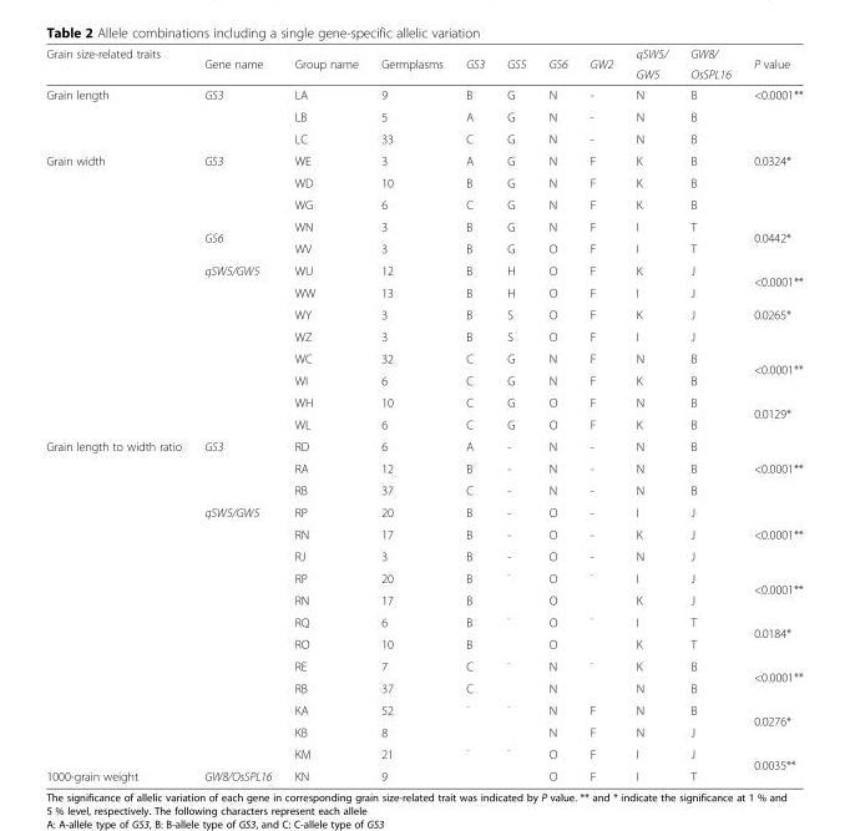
<table><thead><tr><td rowspan="2">Grain size-related traits</td><td rowspan="2">Gene name</td><td rowspan="2">Group name</td><td rowspan="2">Germplasms</td><td rowspan="2">GS3</td><td rowspan="2">GS5</td><td rowspan="2">GS6</td><td rowspan="2">GW2</td><td rowspan="2">qSW5/ GW5</td><td rowspan="2">GW8/ OsSPL16</td><td rowspan="2">P value</td></tr><tr></tr></thead><tbody><tr><td rowspan="3">Grain length</td><td rowspan="3">GS3</td><td>LA</td><td>9</td><td>B</td><td>G</td><td>N</td><td>-</td><td>N</td><td>B</td><td rowspan="3">&lt;0.0001**</td></tr><tr><td>LB</td><td>5</td><td>A</td><td>G</td><td>N</td><td>-</td><td>N</td><td>B</td></tr><tr><td>LC</td><td>33</td><td>C</td><td>G</td><td>N</td><td>-</td><td>N</td><td>B</td></tr><tr><td rowspan="13">Grain width</td><td rowspan="3">GS3</td><td>WE</td><td>3</td><td>A</td><td>G</td><td>N</td><td>F</td><td>K</td><td>B</td><td rowspan="3">0.0324*</td></tr><tr><td>WD</td><td>10</td><td>B</td><td>G</td><td>N</td><td>F</td><td>K</td><td>B</td></tr><tr><td>WG</td><td>6</td><td>C</td><td>G</td><td>N</td><td>F</td><td>K</td><td>B</td></tr><tr><td rowspan="2">GS6</td><td>WN</td><td>3</td><td>B</td><td>G</td><td>N</td><td>F</td><td>I</td><td>T</td><td rowspan="2">0.0442*</td></tr><tr><td>WV</td><td>3</td><td>B</td><td>G</td><td>O</td><td>F</td><td>I</td><td>T</td></tr><tr><td rowspan="8">qSW5/GW5</td><td>WU</td><td>12</td><td>B</td><td>H</td><td>O</td><td>F</td><td>K</td><td>J</td><td rowspan="2">&lt;0.0001**</td></tr><tr><td>WW</td><td>13</td><td>B</td><td>H</td><td>O</td><td>F</td><td>I</td><td>J</td></tr><tr><td>WY</td><td>3</td><td>B</td><td>S</td><td>O</td><td>F</td><td>K</td><td>J</td><td rowspan="2">0.0265*</td></tr><tr><td>WZ</td><td>3</td><td>B</td><td>S</td><td>O</td><td>F</td><td>I</td><td>J</td></tr><tr><td>WC</td><td>32</td><td>C</td><td>G</td><td>N</td><td>F</td><td>N</td><td>B</td><td rowspan="2">&lt;0.0001**</td></tr><tr><td>WI</td><td>6</td><td>C</td><td>G</td><td>N</td><td>F</td><td>K</td><td>B</td></tr><tr><td>WH</td><td>10</td><td>C</td><td>G</td><td>O</td><td>F</td><td>N</td><td>B</td><td rowspan="2">0.0129*</td></tr><tr><td>WL</td><td>6</td><td>C</td><td>G</td><td>O</td><td>F</td><td>K</td><td>B</td></tr><tr><td rowspan="12">Grain length to width ratio</td><td rowspan="3">GS3</td><td>RD</td><td>6</td><td>A</td><td>-</td><td>N</td><td>-</td><td>N</td><td>B</td><td></td></tr><tr><td>RA</td><td>12</td><td>B</td><td>-</td><td>N</td><td>-</td><td>N</td><td>B</td><td>&lt;0.0001**</td></tr><tr><td>RB</td><td>37</td><td>C</td><td>-</td><td>N</td><td>-</td><td>N</td><td>B</td><td></td></tr><tr><td rowspan="9">qSW5/GW5</td><td>RP</td><td>20</td><td>B</td><td>-</td><td>O</td><td>-</td><td>I</td><td>J</td><td></td></tr><tr><td>RN</td><td>17</td><td>B</td><td>-</td><td>O</td><td>-</td><td>K</td><td>J</td><td>&lt;0.0001**</td></tr><tr><td>RJ</td><td>3</td><td>B</td><td>-</td><td>O</td><td>-</td><td>N</td><td>J</td><td></td></tr><tr><td>RP</td><td>20</td><td>B</td><td><sup>-</sup></td><td>O</td><td><sup>-</sup></td><td>I</td><td>J</td><td rowspan="2">&lt;0.0001**</td></tr><tr><td>RN</td><td>17</td><td>B</td><td></td><td>O</td><td></td><td>K</td><td>J</td></tr><tr><td>RQ</td><td>6</td><td>B</td><td><sup>-</sup></td><td>O</td><td><sup>-</sup></td><td>I</td><td>T</td><td rowspan="2">0.0184*</td></tr><tr><td>RO</td><td>10</td><td>B</td><td></td><td>O</td><td></td><td>K</td><td>T</td></tr><tr><td>RE</td><td>7</td><td>C</td><td><sup>-</sup></td><td>N</td><td><sup>-</sup></td><td>K</td><td>B</td><td rowspan="2">&lt;0.0001**</td></tr><tr><td>RB</td><td>37</td><td>C</td><td></td><td>N</td><td></td><td>N</td><td>B</td></tr><tr><td rowspan="4">1000-grain weight</td><td rowspan="4">GW8/OsSPL16</td><td>KA</td><td>52</td><td><sup>-</sup></td><td><sup>-</sup></td><td>N</td><td>F</td><td>N</td><td>B</td><td rowspan="2">0.0276*</td></tr><tr><td>KB</td><td>8</td><td></td><td></td><td>N</td><td>F</td><td>N</td><td>J</td></tr><tr><td>KM</td><td>21</td><td><sup>-</sup></td><td><sup>-</sup></td><td>O</td><td>F</td><td>I</td><td>J</td><td rowspan="2">0.0035**</td></tr><tr><td>KN</td><td>9</td><td></td><td></td><td>O</td><td>F</td><td>I</td><td>T</td></tr></tbody></table>